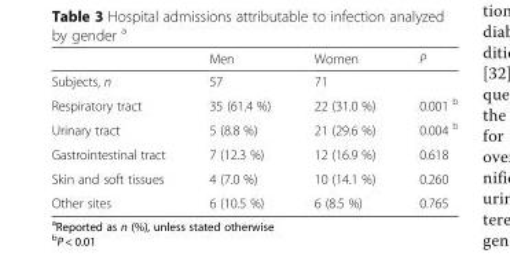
<table><thead><tr><td></td><td>Men</td><td>Women</td><td>P</td></tr></thead><tbody><tr><td>Subjects, n</td><td>57</td><td>71</td><td></td></tr><tr><td>Respiratory tract</td><td>35 (61.4 %)</td><td>22 (31.0 %)</td><td>0.001 <sup>b</sup></td></tr><tr><td>Urinary tract</td><td>5 (8.8 %)</td><td>21 (29.6 %)</td><td>0.004 <sup>b</sup></td></tr><tr><td>Gastrointestinal tract</td><td>7 (12.3 %)</td><td>12 (16.9 %)</td><td>0.618</td></tr><tr><td>Skin and soft tissues</td><td>4 (7.0 %)</td><td>10 (14.1 %)</td><td>0.260</td></tr><tr><td>Other sites</td><td>6 (10.5 %)</td><td>6 (8.5 %)</td><td>0.765</td></tr></tbody></table>